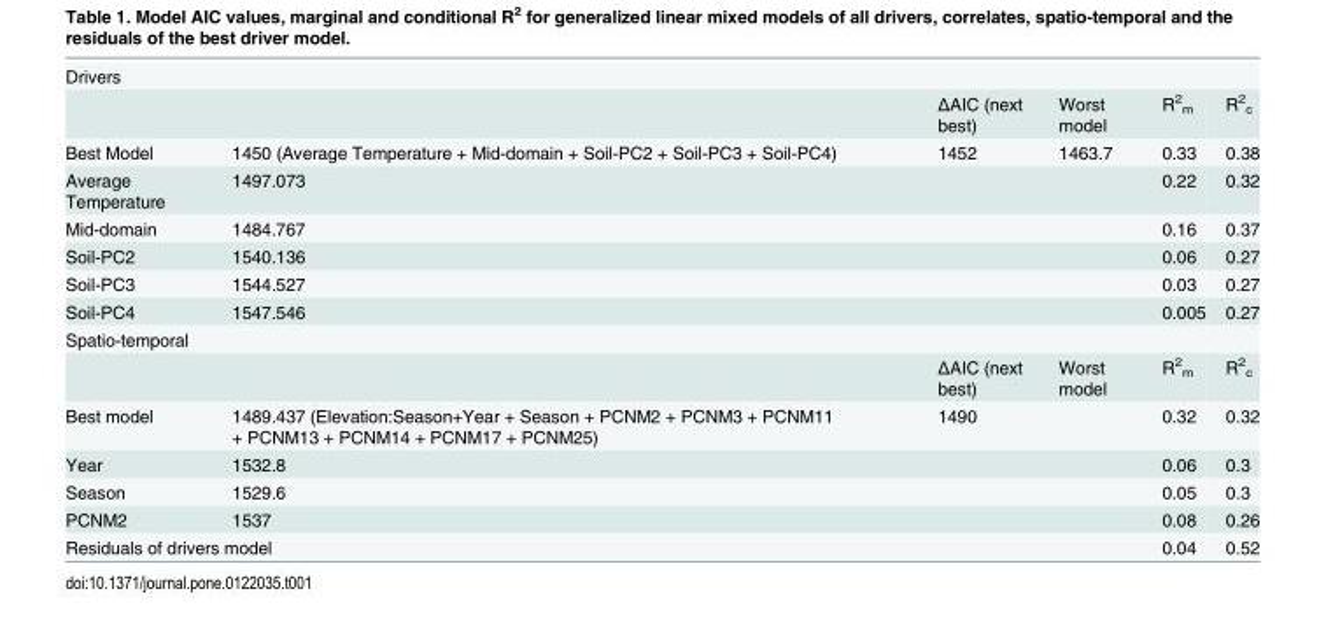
<table><tbody><tr><td colspan="6">Drivers</td></tr><tr><td></td><td></td><td>ΔAIC (next best)</td><td>Worst model</td><td>R<sup>2</sup> <sub>m</sub></td><td>R<sup>2</sup> <sub>c</sub></td></tr><tr><td>Best Model</td><td>1450 (Average Temperature + Mid-domain + Soil-PC2 + Soil-PC3 + Soil-PC4)</td><td>1452</td><td>1463.7</td><td>0.33</td><td>0.38</td></tr><tr><td>Average Temperature</td><td>1497.073</td><td></td><td></td><td>0.22</td><td>0.32</td></tr><tr><td>Mid-domain</td><td>1484.767</td><td></td><td></td><td>0.16</td><td>0.37</td></tr><tr><td>Soil-PC2</td><td>1540.136</td><td></td><td></td><td>0.06</td><td>0.27</td></tr><tr><td>Soil-PC3</td><td>1544.527</td><td></td><td></td><td>0.03</td><td>0.27</td></tr><tr><td>Soil-PC4</td><td>1547.546</td><td></td><td></td><td>0.005</td><td>0.27</td></tr><tr><td colspan="6">Spatio-temporal</td></tr><tr><td></td><td></td><td>ΔAIC (next best)</td><td>Worst model</td><td>R<sup>2</sup> <sub>m</sub></td><td>R<sup>2</sup> <sub>c</sub></td></tr><tr><td>Best model</td><td>1489.437 (Elevation:Season+Year + Season + PCNM2 + PCNM3 + PCNM11 + PCNM13 + PCNM14 + PCNM17 + PCNM25)</td><td>1490</td><td></td><td>0.32</td><td>0.32</td></tr><tr><td>Year</td><td>1532.8</td><td></td><td></td><td>0.06</td><td>0.3</td></tr><tr><td>Season</td><td>1529.6</td><td></td><td></td><td>0.05</td><td>0.3</td></tr><tr><td>PCNM2</td><td>1537</td><td></td><td></td><td>0.08</td><td>0.26</td></tr><tr><td colspan="2">Residuals of drivers model</td><td></td><td></td><td>0.04</td><td>0.52</td></tr></tbody></table>